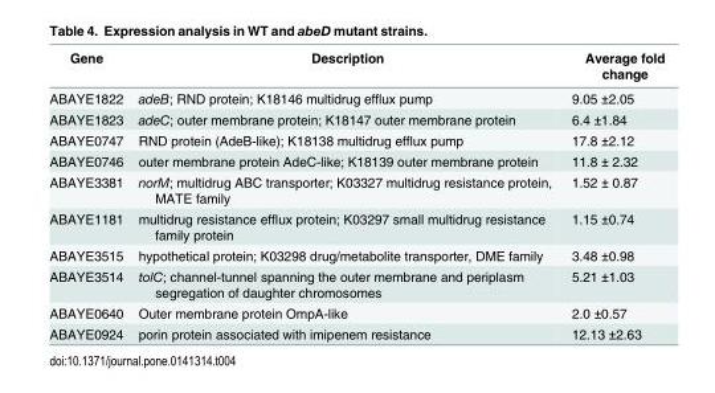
<table><thead><tr><td>Gene</td><td>Description</td><td>Average fold change</td></tr></thead><tbody><tr><td>ABAYE1822</td><td>adeB; RND protein; K18146 multidrug efflux pump</td><td>9.05 ±2.05</td></tr><tr><td>ABAYE1823</td><td>adeC; outer membrane protein; K18147 outer membrane protein</td><td>6.4 ±1.84</td></tr><tr><td>ABAYE0747</td><td>RND protein (AdeB-like); K18138 multidrug efflux pump</td><td>17.8 ±2.12</td></tr><tr><td>ABAYE0746</td><td>outer membrane protein AdeC-like; K18139 outer membrane protein</td><td>11.8 ± 2.32</td></tr><tr><td>ABAYE3381</td><td>norM; multidrug ABC transporter; K03327 multidrug resistance protein, MATE family</td><td>1.52 ± 0.87</td></tr><tr><td>ABAYE1181</td><td>multidrug resistance efflux protein; K03297 small multidrug resistance family protein</td><td>1.15 ±0.74</td></tr><tr><td>ABAYE3515</td><td>hypothetical protein; K03298 drug/metabolite transporter, DME family</td><td>3.48 ±0.98</td></tr><tr><td>ABAYE3514</td><td>tolC; channel-tunnel spanning the outer membrane and periplasm segregation of daughter chromosomes</td><td>5.21 ±1.03</td></tr><tr><td>ABAYE0640</td><td>Outer membrane protein OmpA-like</td><td>2.0 ±0.57</td></tr><tr><td>ABAYE0924</td><td>porin protein associated with imipenem resistance</td><td>12.13 ±2.63</td></tr></tbody></table>